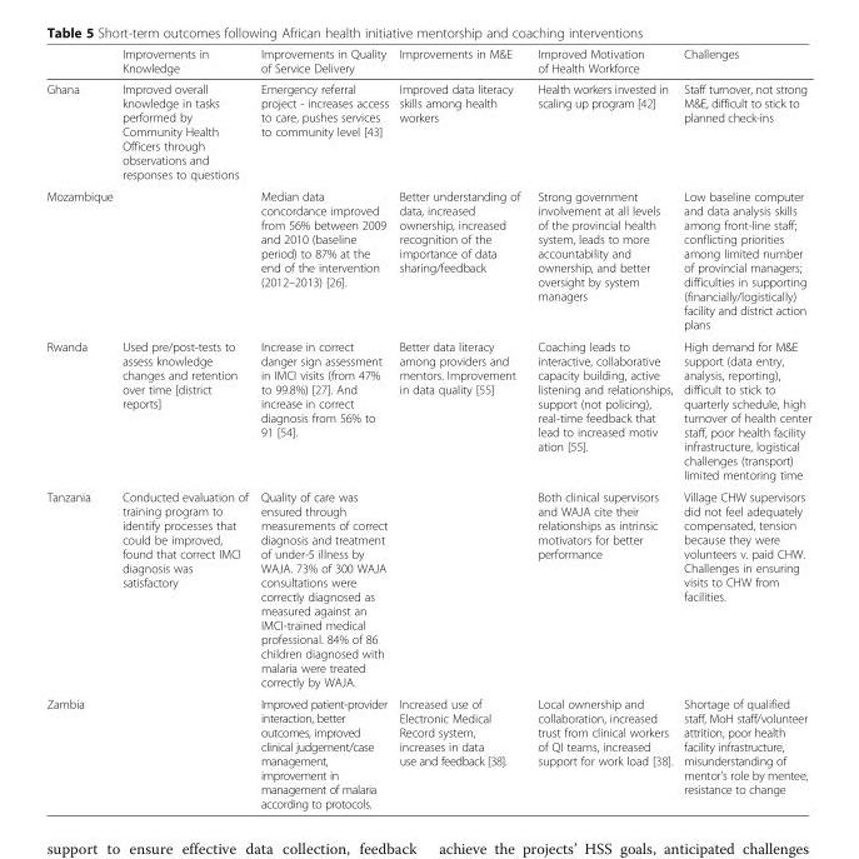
<table><thead><tr><td></td><td>Improvements in Knowledge</td><td>Improvements in Quality of Service Delivery</td><td>Improvements in M&amp;E</td><td>Improved Motivation of Health Workforce</td><td>Challenges</td></tr></thead><tbody><tr><td>Ghana</td><td>Improved overall knowledge in tasks performed by Community Health Officers through observations and responses to questions</td><td>Emergency referral project - increases access to care, pushes services to community level [43]</td><td>Improved data literacy skills among health workers</td><td>Health workers invested in scaling up program [42]</td><td>Staff turnover, not strong M&amp;E, difficult to stick to planned check-ins</td></tr><tr><td>Mozambique</td><td></td><td>Median data concordance improved from 56% between 2009 and 2010 (baseline period) to 87% at the end of the intervention (2012–2013) [26].</td><td>Better understanding of data, increased ownership, increased recognition of the importance of data sharing/feedback</td><td>Strong government involvement at all levels of the provincial health system, leads to more accountability and ownership, and better oversight by system managers</td><td>Low baseline computer and data analysis skills among front-line staff; conflicting priorities among limited number of provincial managers; difficulties in supporting (financially/logistically) facility and district action plans</td></tr><tr><td>Rwanda</td><td>Used pre/post-tests to assess knowledge changes and retention over time [district reports]</td><td>Increase in correct danger sign assessment in IMCI visits (from 47% to 99.8%) [27]. And increase in correct diagnosis from 56% to 91 [54].</td><td>Better data literacy among providers and mentors. Improvement in data quality [55]</td><td>Coaching leads to interactive, collaborative capacity building, active listening and relationships, support (not policing), real-time feedback that lead to increased motiv ation [55].</td><td>High demand for M&amp;E support (data entry, analysis, reporting), difficult to stick to quarterly schedule, high turnover of health center staff, poor health facility infrastructure, logistical challenges (transport) limited mentoring time</td></tr><tr><td>Tanzania</td><td>Conducted evaluation of training program to identify processes that could be improved, found that correct IMCI diagnosis was satisfactory</td><td>Quality of care was ensured through measurements of correct diagnosis and treatment of under-5 illness by WAJA. 73% of 300 WAJA consultations were correctly diagnosed as measured against an IMCI-trained medical professional. 84% of 86 children diagnosed with malaria were treated correctly by WAJA.</td><td></td><td>Both clinical supervisors and WAJA cite their relationships as intrinsic motivators for better performance</td><td>Village CHW supervisors did not feel adequately compensated, tension because they were volunteers v. paid CHW. Challenges in ensuring visits to CHW from facilities.</td></tr><tr><td>Zambia</td><td></td><td>Improved patient-provider interaction, better outcomes, improved clinical judgement/case management, improvement in management of malaria according to protocols.</td><td>Increased use of Electronic Medical Record system, increases in data use and feedback [38].</td><td>Local ownership and collaboration, increased trust from clinical workers of QI teams, increased support for work load [38].</td><td>Shortage of qualified staff, MoH staff/volunteer attrition, poor health facility infrastructure, misunderstanding of mentor’s role by mentee, resistance to change</td></tr></tbody></table>